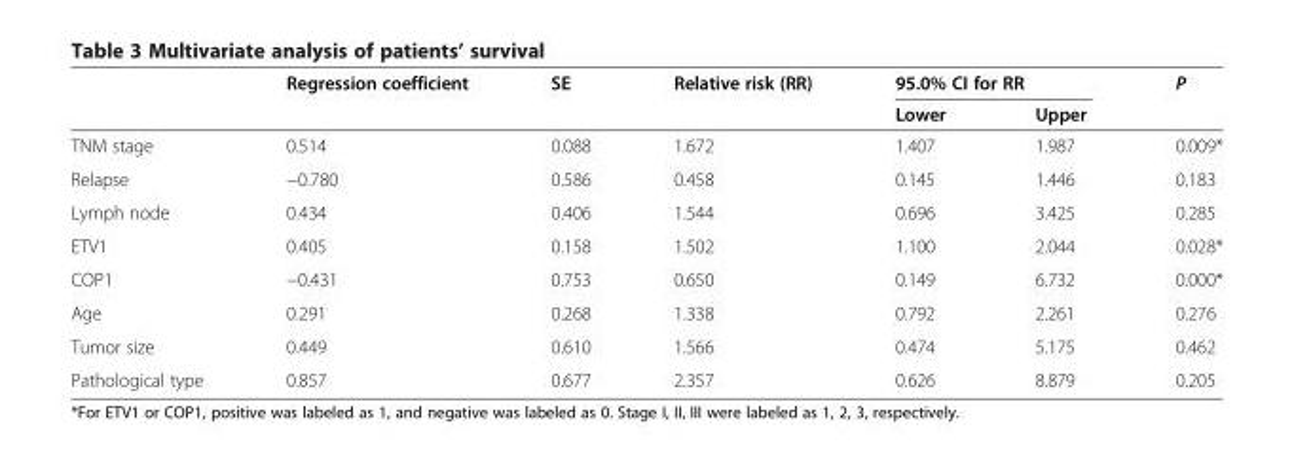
<table><thead><tr><td rowspan="2"></td><td rowspan="2">Regression coefficient</td><td rowspan="2">SE</td><td rowspan="2">Relative risk (RR)</td><td colspan="2">95.0% CI for RR</td><td rowspan="2">P</td></tr><tr><td>Lower</td><td>Upper</td></tr></thead><tbody><tr><td>TNM stage</td><td>0.514</td><td>0.088</td><td>1.672</td><td>1.407</td><td>1.987</td><td>0.009*</td></tr><tr><td>Relapse</td><td>−0.780</td><td>0.586</td><td>0.458</td><td>0.145</td><td>1.446</td><td>0.183</td></tr><tr><td>Lymph node</td><td>0.434</td><td>0.406</td><td>1.544</td><td>0.696</td><td>3.425</td><td>0.285</td></tr><tr><td>ETV1</td><td>0.405</td><td>0.158</td><td>1.502</td><td>1.100</td><td>2.044</td><td>0.028*</td></tr><tr><td>COP1</td><td>−0.431</td><td>0.753</td><td>0.650</td><td>0.149</td><td>6.732</td><td>0.000*</td></tr><tr><td>Age</td><td>0.291</td><td>0.268</td><td>1.338</td><td>0.792</td><td>2.261</td><td>0.276</td></tr><tr><td>Tumor size</td><td>0.449</td><td>0.610</td><td>1.566</td><td>0.474</td><td>5.175</td><td>0.462</td></tr><tr><td>Pathological type</td><td>0.857</td><td>0.677</td><td>2.357</td><td>0.626</td><td>8.879</td><td>0.205</td></tr></tbody></table>